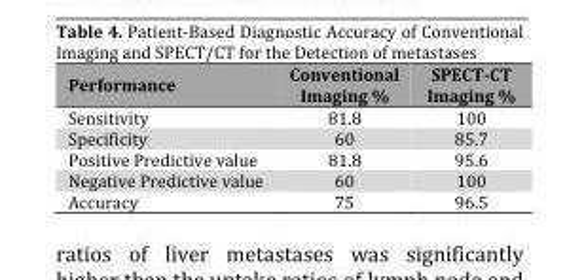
<table><thead><tr><td>Performance</td><td>Conventional Imaging %</td><td>SPECT-CT Imaging %</td></tr></thead><tbody><tr><td>Sensitivity</td><td>81.8</td><td>100</td></tr><tr><td>Specificity</td><td>60</td><td>85.7</td></tr><tr><td>Positive Predictive value</td><td>81.8</td><td>95.6</td></tr><tr><td>Negative Predictive value</td><td>60</td><td>100</td></tr><tr><td>Accuracy</td><td>75</td><td>96.5</td></tr></tbody></table>